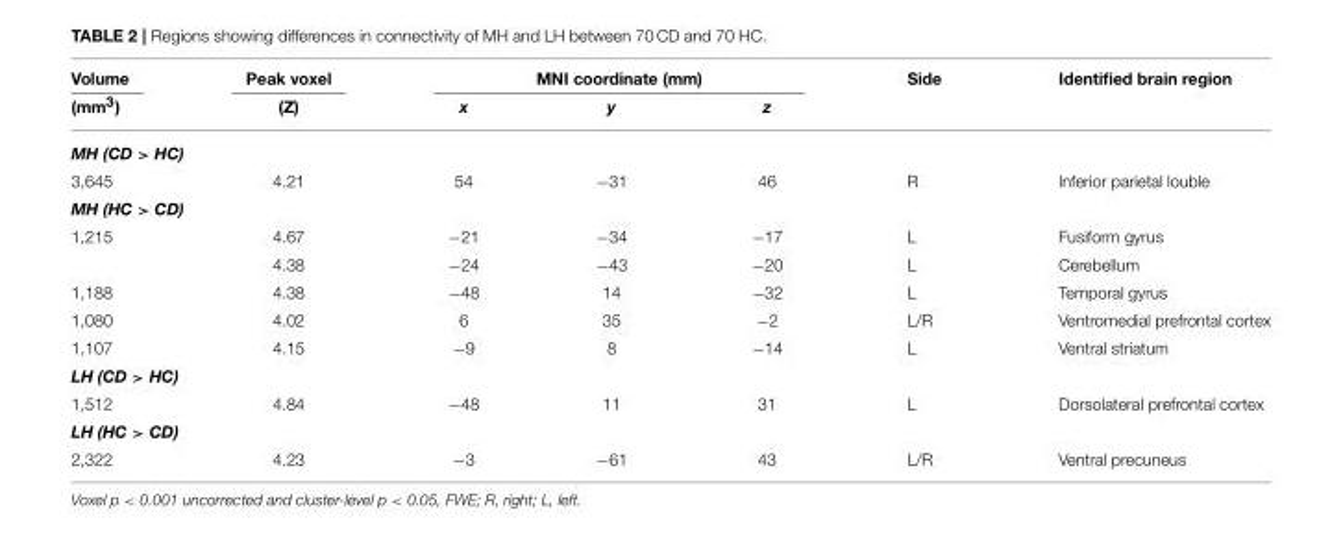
<table><thead><tr><td rowspan="2">Volume (mm<sup>3</sup>)</td><td rowspan="2">Peak voxel (Z)</td><td colspan="3">MNI coordinate (mm)</td><td rowspan="2">Side</td><td rowspan="2">Identified brain region</td></tr><tr><td>x</td><td>y</td><td>z</td></tr></thead><tbody><tr><td colspan="7">MH (CD &gt; HC)</td></tr><tr><td>3,645</td><td>4.21</td><td>54</td><td>−31</td><td>46</td><td>R</td><td>Inferior parietal louble</td></tr><tr><td colspan="7">MH (HC &gt; CD)</td></tr><tr><td rowspan="2">1,215</td><td>4.67</td><td>−21</td><td>−34</td><td>−17</td><td>L</td><td>Fusiform gyrus</td></tr><tr><td>4.38</td><td>−24</td><td>−43</td><td>−20</td><td>L</td><td>Cerebellum</td></tr><tr><td>1,188</td><td>4.38</td><td>−48</td><td>14</td><td>−32</td><td>L</td><td>Temporal gyrus</td></tr><tr><td>1,080</td><td>4.02</td><td>6</td><td>35</td><td>−2</td><td>L/R</td><td>Ventromedial prefrontal cortex</td></tr><tr><td>1,107</td><td>4.15</td><td>−9</td><td>8</td><td>−14</td><td>L</td><td>Ventral striatum</td></tr><tr><td colspan="7">LH (CD &gt; HC)</td></tr><tr><td>1,512</td><td>4.84</td><td>−48</td><td>11</td><td>31</td><td>L</td><td>Dorsolateral prefrontal cortex</td></tr><tr><td colspan="7">LH (HC &gt; CD)</td></tr><tr><td>2,322</td><td>4.23</td><td>−3</td><td>−61</td><td>43</td><td>L/R</td><td>Ventral precuneus</td></tr></tbody></table>